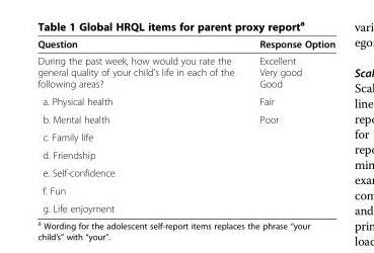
<table><thead><tr><td>Question</td><td>Response Option</td></tr></thead><tbody><tr><td>During the past week, how would you rate the general quality of your child’s life in each of the following areas?</td><td>Excellent Very good Good</td></tr><tr><td>a. Physical health</td><td>Fair</td></tr><tr><td>b. Mental health</td><td>Poor</td></tr><tr><td colspan="2">c. Family life</td></tr><tr><td colspan="2">d. Friendship</td></tr><tr><td colspan="2">e. Self-confidence</td></tr><tr><td colspan="2">f. Fun</td></tr><tr><td>g. Life enjoyment</td><td></td></tr></tbody></table>